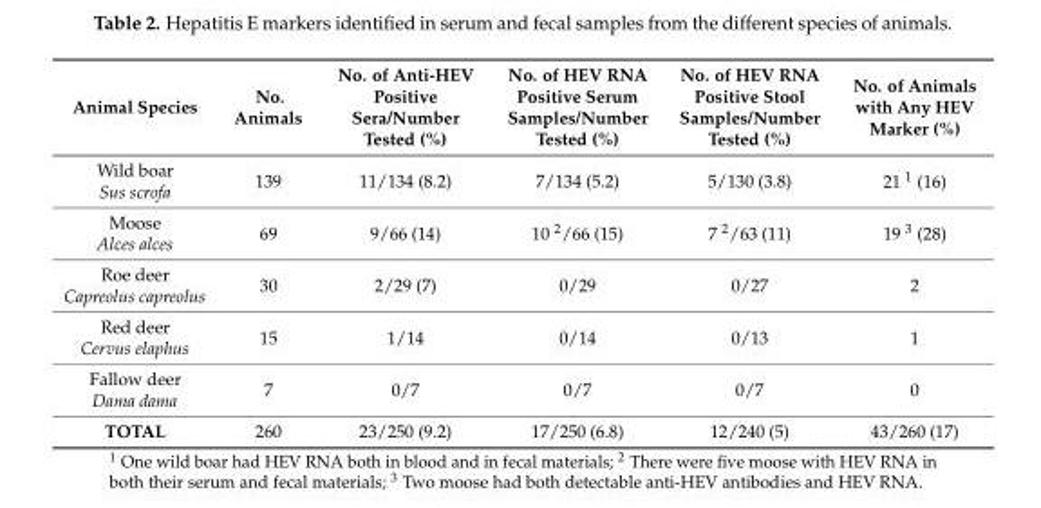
<table><thead><tr><td>Animal Species</td><td>No. Animals</td><td>No. of Anti-HEV Positive Sera/Number Tested (%)</td><td>No. of HEV RNA Positive Serum Samples/Number Tested (%)</td><td>No. of HEV RNA Positive Stool Samples/Number Tested (%)</td><td>No. of Animals with Any HEV Marker (%)</td></tr></thead><tbody><tr><td>Wild boar Sus scrofa</td><td>139</td><td>11/134 (8.2)</td><td>7/134 (5.2)</td><td>5/130 (3.8)</td><td>21 <sup>1</sup> (16)</td></tr><tr><td>Moose Alces alces</td><td>69</td><td>9/66 (14)</td><td>10 <sup>2</sup>/66 (15)</td><td>7 <sup>2</sup>/63 (11)</td><td>19 <sup>3</sup> (28)</td></tr><tr><td>Roe deer Capreolus capreolus</td><td>30</td><td>2/29 (7)</td><td>0/29</td><td>0/27</td><td>2</td></tr><tr><td>Red deer Cervus elaphus</td><td>15</td><td>1/14</td><td>0/14</td><td>0/13</td><td>1</td></tr><tr><td>Fallow deer Dama dama</td><td>7</td><td>0/7</td><td>0/7</td><td>0/7</td><td>0</td></tr><tr><td>TOTAL</td><td>260</td><td>23/250 (9.2)</td><td>17/250 (6.8)</td><td>12/240 (5)</td><td>43/260 (17)</td></tr></tbody></table>